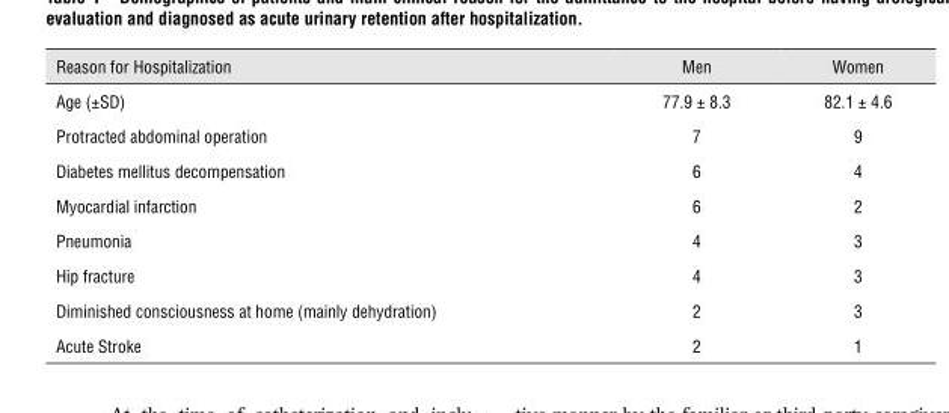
<table><thead><tr><td>Reason for Hospitalization</td><td>Men</td><td>Women</td></tr></thead><tbody><tr><td>Age (±SD)</td><td>77.9 ± 8.3</td><td>82.1 ± 4.6</td></tr><tr><td>Protracted abdominal operation</td><td>7</td><td>9</td></tr><tr><td>Diabetes mellitus decompensation</td><td>6</td><td>4</td></tr><tr><td>Myocardial infarction</td><td>6</td><td>2</td></tr><tr><td>Pneumonia</td><td>4</td><td>3</td></tr><tr><td>Hip fracture</td><td>4</td><td>3</td></tr><tr><td>Diminished consciousness at home (mainly dehydration)</td><td>2</td><td>3</td></tr><tr><td>Acute Stroke</td><td>2</td><td>1</td></tr></tbody></table>